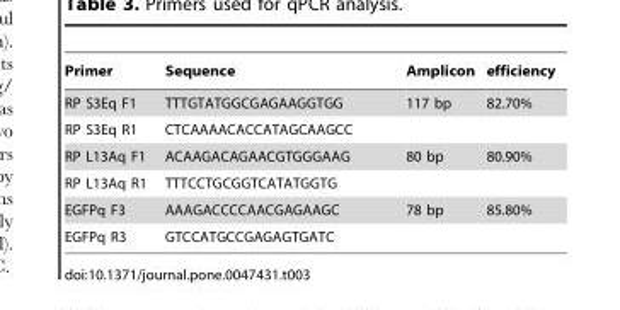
<table><thead><tr><td>Primer</td><td>Sequence</td><td>Amplicon</td><td>efficiency</td></tr></thead><tbody><tr><td>RP S3Eq F1</td><td>TTTGTATGGCGAGAAGGTGG</td><td>117 bp</td><td>82.70%</td></tr><tr><td>RP S3Eq R1</td><td>CTCAAAACACCATAGCAAGCC</td><td></td><td></td></tr><tr><td>RP L13Aq F1</td><td>ACAAGACAGAACGTGGGAAG</td><td>80 bp</td><td>80.90%</td></tr><tr><td>RP L13Aq R1</td><td>TTTCCTGCGGTCATATGGTG</td><td></td><td></td></tr><tr><td>EGFPq F3</td><td>AAAGACCCCAACGAGAAGC</td><td>78 bp</td><td>85.80%</td></tr><tr><td>EGFPq R3</td><td>GTCCATGCCGAGAGTGATC</td><td></td><td></td></tr></tbody></table>